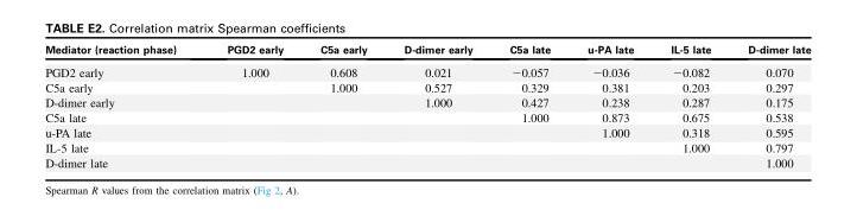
<table><thead><tr><td>Mediator (reaction phase)</td><td>PGD2 early</td><td>C5a early</td><td>D-dimer early</td><td>C5a late</td><td>u-PA late</td><td>IL-5 late</td><td>D-dimer late</td></tr></thead><tbody><tr><td>PGD2 early</td><td>1.000</td><td>0.608</td><td>0.021</td><td>−0.057</td><td>−0.036</td><td>−0.082</td><td>0.070</td></tr><tr><td>C5a early</td><td></td><td>1.000</td><td>0.527</td><td>0.329</td><td>0.381</td><td>0.203</td><td>0.297</td></tr><tr><td>D-dimer early</td><td></td><td></td><td>1.000</td><td>0.427</td><td>0.238</td><td>0.287</td><td>0.175</td></tr><tr><td>C5a late</td><td></td><td></td><td></td><td>1.000</td><td>0.873</td><td>0.675</td><td>0.538</td></tr><tr><td>u-PA late</td><td></td><td></td><td></td><td></td><td>1.000</td><td>0.318</td><td>0.595</td></tr><tr><td>IL-5 late</td><td></td><td></td><td></td><td></td><td></td><td>1.000</td><td>0.797</td></tr><tr><td>D-dimer late</td><td></td><td></td><td></td><td></td><td></td><td></td><td>1.000</td></tr></tbody></table>